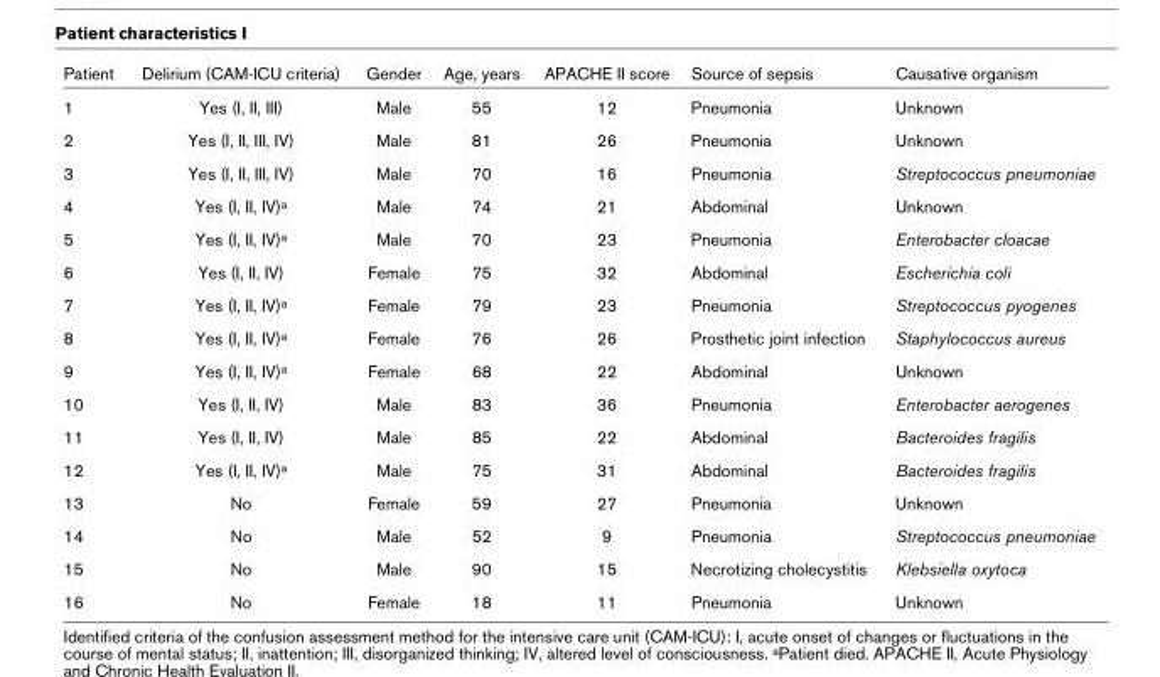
<table><thead><tr><td>Patient</td><td>Delirium (CAM-ICU criteria)</td><td>Gender</td><td>Age, years</td><td>APACHE II score</td><td>Source of sepsis</td><td>Causative organism</td></tr></thead><tbody><tr><td>1</td><td>Yes (I, II, III)</td><td>Male</td><td>55</td><td>12</td><td>Pneumonia</td><td>Unknown</td></tr><tr><td>2</td><td>Yes (I, II, III, IV)</td><td>Male</td><td>81</td><td>26</td><td>Pneumonia</td><td>Unknown</td></tr><tr><td>3</td><td>Yes (I, II, III, IV)</td><td>Male</td><td>70</td><td>16</td><td>Pneumonia</td><td>Streptococcus pneumoniae</td></tr><tr><td>4</td><td>Yes (I, II, IV)<sup>a</sup></td><td>Male</td><td>74</td><td>21</td><td>Abdominal</td><td>Unknown</td></tr><tr><td>5</td><td>Yes (I, II, IV)<sup>a</sup></td><td>Male</td><td>70</td><td>23</td><td>Pneumonia</td><td>Enterobacter cloacae</td></tr><tr><td>6</td><td>Yes (I, II, IV)</td><td>Female</td><td>75</td><td>32</td><td>Abdominal</td><td>Escherichia coli</td></tr><tr><td>7</td><td>Yes (I, II, IV)<sup>a</sup></td><td>Female</td><td>79</td><td>23</td><td>Pneumonia</td><td>Streptococcus pyogenes</td></tr><tr><td>8</td><td>Yes (I, II, IV)<sup>a</sup></td><td>Female</td><td>76</td><td>26</td><td>Prosthetic joint infection</td><td>Staphylococcus aureus</td></tr><tr><td>9</td><td>Yes (I, II, IV)<sup>a</sup></td><td>Female</td><td>68</td><td>22</td><td>Abdominal</td><td>Unknown</td></tr><tr><td>10</td><td>Yes (I, II, IV)</td><td>Male</td><td>83</td><td>36</td><td>Pneumonia</td><td>Enterobacter aerogenes</td></tr><tr><td>11</td><td>Yes (I, II, IV)</td><td>Male</td><td>85</td><td>22</td><td>Abdominal</td><td>Bacteroides fragilis</td></tr><tr><td>12</td><td>Yes (I, II, IV)<sup>a</sup></td><td>Male</td><td>75</td><td>31</td><td>Abdominal</td><td>Bacteroides fragilis</td></tr><tr><td>13</td><td>No</td><td>Female</td><td>59</td><td>27</td><td>Pneumonia</td><td>Unknown</td></tr><tr><td>14</td><td>No</td><td>Male</td><td>52</td><td>9</td><td>Pneumonia</td><td>Streptococcus pneumoniae</td></tr><tr><td>15</td><td>No</td><td>Male</td><td>90</td><td>15</td><td>Necrotizing cholecystitis</td><td>Klebsiella oxytoca</td></tr><tr><td>16</td><td>No</td><td>Female</td><td>18</td><td>11</td><td>Pneumonia</td><td>Unknown</td></tr></tbody></table>